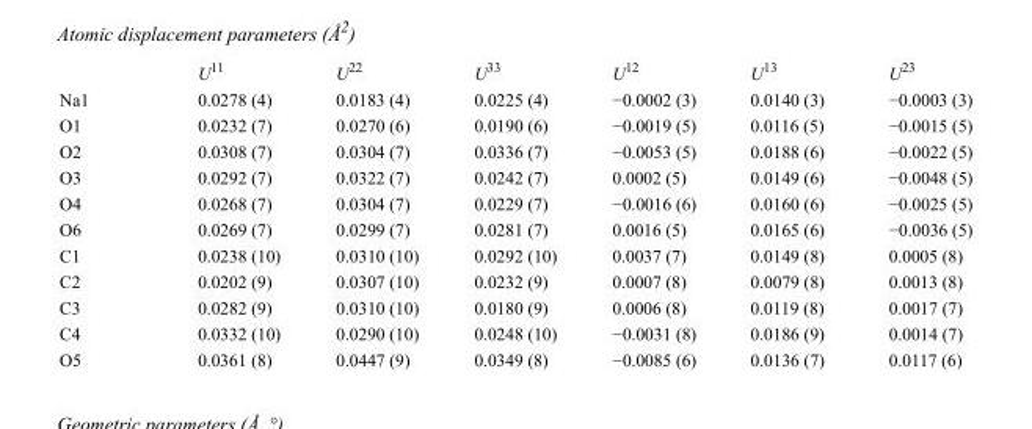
<table><thead><tr><td></td><td>U<sup>11</sup></td><td>U<sup>22</sup></td><td>U<sup>33</sup></td><td>U<sup>12</sup></td><td>U<sup>13</sup></td><td>U<sup>23</sup></td></tr></thead><tbody><tr><td>Na1</td><td>0.0278 (4)</td><td>0.0183 (4)</td><td>0.0225 (4)</td><td>−0.0002 (3)</td><td>0.0140 (3)</td><td>−0.0003 (3)</td></tr><tr><td>O1</td><td>0.0232 (7)</td><td>0.0270 (6)</td><td>0.0190 (6)</td><td>−0.0019 (5)</td><td>0.0116 (5)</td><td>−0.0015 (5)</td></tr><tr><td>O2</td><td>0.0308 (7)</td><td>0.0304 (7)</td><td>0.0336 (7)</td><td>−0.0053 (5)</td><td>0.0188 (6)</td><td>−0.0022 (5)</td></tr><tr><td>O3</td><td>0.0292 (7)</td><td>0.0322 (7)</td><td>0.0242 (7)</td><td>0.0002 (5)</td><td>0.0149 (6)</td><td>−0.0048 (5)</td></tr><tr><td>O4</td><td>0.0268 (7)</td><td>0.0304 (7)</td><td>0.0229 (7)</td><td>−0.0016 (6)</td><td>0.0160 (6)</td><td>−0.0025 (5)</td></tr><tr><td>O6</td><td>0.0269 (7)</td><td>0.0299 (7)</td><td>0.0281 (7)</td><td>0.0016 (5)</td><td>0.0165 (6)</td><td>−0.0036 (5)</td></tr><tr><td>C1</td><td>0.0238 (10)</td><td>0.0310 (10)</td><td>0.0292 (10)</td><td>0.0037 (7)</td><td>0.0149 (8)</td><td>0.0005 (8)</td></tr><tr><td>C2</td><td>0.0202 (9)</td><td>0.0307 (10)</td><td>0.0232 (9)</td><td>0.0007 (8)</td><td>0.0079 (8)</td><td>0.0013 (8)</td></tr><tr><td>C3</td><td>0.0282 (9)</td><td>0.0310 (10)</td><td>0.0180 (9)</td><td>0.0006 (8)</td><td>0.0119 (8)</td><td>0.0017 (7)</td></tr><tr><td>C4</td><td>0.0332 (10)</td><td>0.0290 (10)</td><td>0.0248 (10)</td><td>−0.0031 (8)</td><td>0.0186 (9)</td><td>0.0014 (7)</td></tr><tr><td>O5</td><td>0.0361 (8)</td><td>0.0447 (9)</td><td>0.0349 (8)</td><td>−0.0085 (6)</td><td>0.0136 (7)</td><td>0.0117 (6)</td></tr></tbody></table>